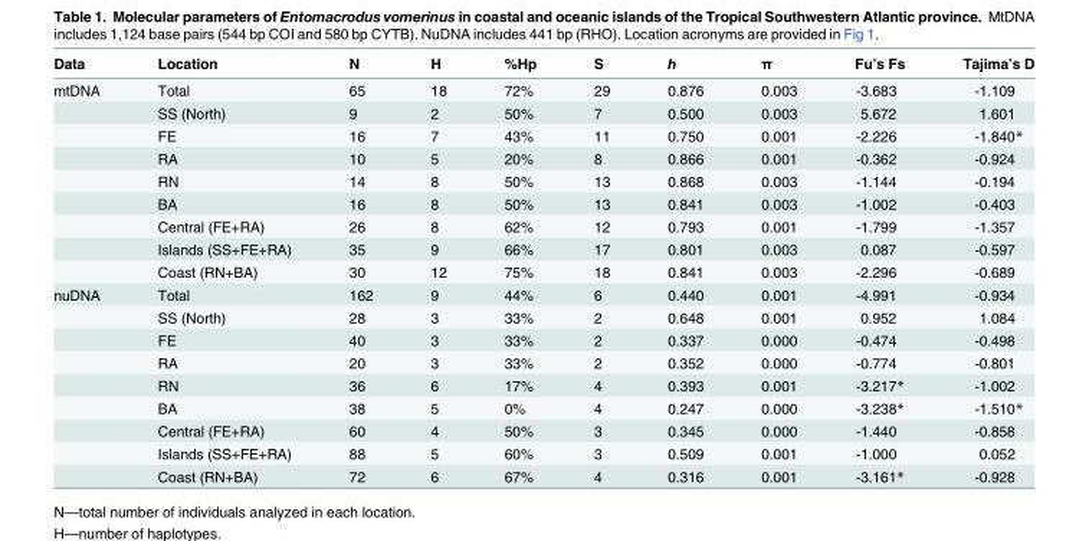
<table><thead><tr><td>Data</td><td>Location</td><td>N</td><td>H</td><td>%Hp</td><td>S</td><td>h</td><td>π</td><td>Fu’s Fs</td><td>Tajima’s D</td></tr></thead><tbody><tr><td rowspan="9">mtDNA</td><td>Total</td><td>65</td><td>18</td><td>72%</td><td>29</td><td>0.876</td><td>0.003</td><td>-3.683</td><td>-1.109</td></tr><tr><td>SS (North)</td><td>9</td><td>2</td><td>50%</td><td>7</td><td>0.500</td><td>0.003</td><td>5.672</td><td>1.601</td></tr><tr><td>FE</td><td>16</td><td>7</td><td>43%</td><td>11</td><td>0.750</td><td>0.001</td><td>-2.226</td><td>-1.840*</td></tr><tr><td>RA</td><td>10</td><td>5</td><td>20%</td><td>8</td><td>0.866</td><td>0.001</td><td>-0.362</td><td>-0.924</td></tr><tr><td>RN</td><td>14</td><td>8</td><td>50%</td><td>13</td><td>0.868</td><td>0.003</td><td>-1.144</td><td>-0.194</td></tr><tr><td>BA</td><td>16</td><td>8</td><td>50%</td><td>13</td><td>0.841</td><td>0.003</td><td>-1.002</td><td>-0.403</td></tr><tr><td>Central (FE+RA)</td><td>26</td><td>8</td><td>62%</td><td>12</td><td>0.793</td><td>0.001</td><td>-1.799</td><td>-1.357</td></tr><tr><td>Islands (SS+FE+RA)</td><td>35</td><td>9</td><td>66%</td><td>17</td><td>0.801</td><td>0.003</td><td>0.087</td><td>-0.597</td></tr><tr><td>Coast (RN+BA)</td><td>30</td><td>12</td><td>75%</td><td>18</td><td>0.841</td><td>0.003</td><td>-2.296</td><td>-0.689</td></tr><tr><td rowspan="9">nuDNA</td><td>Total</td><td>162</td><td>9</td><td>44%</td><td>6</td><td>0.440</td><td>0.001</td><td>-4.991</td><td>-0.934</td></tr><tr><td>SS (North)</td><td>28</td><td>3</td><td>33%</td><td>2</td><td>0.648</td><td>0.001</td><td>0.952</td><td>1.084</td></tr><tr><td>FE</td><td>40</td><td>3</td><td>33%</td><td>2</td><td>0.337</td><td>0.000</td><td>-0.474</td><td>-0.498</td></tr><tr><td>RA</td><td>20</td><td>3</td><td>33%</td><td>2</td><td>0.352</td><td>0.000</td><td>-0.774</td><td>-0.801</td></tr><tr><td>RN</td><td>36</td><td>6</td><td>17%</td><td>4</td><td>0.393</td><td>0.001</td><td>-3.217*</td><td>-1.002</td></tr><tr><td>BA</td><td>38</td><td>5</td><td>0%</td><td>4</td><td>0.247</td><td>0.000</td><td>-3.238*</td><td>-1.510*</td></tr><tr><td>Central (FE+RA)</td><td>60</td><td>4</td><td>50%</td><td>3</td><td>0.345</td><td>0.000</td><td>-1.440</td><td>-0.858</td></tr><tr><td>Islands (SS+FE+RA)</td><td>88</td><td>5</td><td>60%</td><td>3</td><td>0.509</td><td>0.001</td><td>-1.000</td><td>0.052</td></tr><tr><td>Coast (RN+BA)</td><td>72</td><td>6</td><td>67%</td><td>4</td><td>0.316</td><td>0.001</td><td>-3.161*</td><td>-0.928</td></tr></tbody></table>